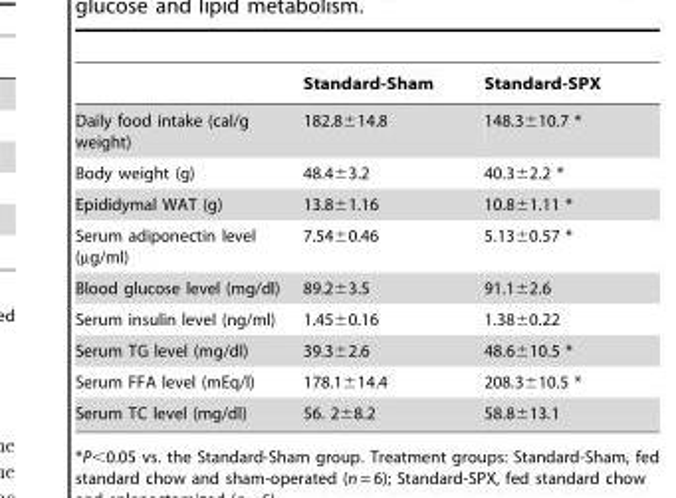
<table><thead><tr><td></td><td>Standard-Sham</td><td>Standard-SPX</td></tr></thead><tbody><tr><td>Daily food intake (cal/g weight)</td><td>182.8±14.8</td><td>148.3±10.7 *</td></tr><tr><td>Body weight (g)</td><td>48.4±3.2</td><td>40.3±2.2 *</td></tr><tr><td>Epididymal WAT (g)</td><td>13.8±1.16</td><td>10.8±1.11 *</td></tr><tr><td>Serum adiponectin level (µg/ml)</td><td>7.54±0.46</td><td>5.13±0.57 *</td></tr><tr><td>Blood glucose level (mg/dl)</td><td>89.2±3.5</td><td>91.1±2.6</td></tr><tr><td>Serum insulin level (ng/ml)</td><td>1.45±0.16</td><td>1.38±0.22</td></tr><tr><td>Serum TG level (mg/dl)</td><td>39.3±2.6</td><td>48.6±10.5 *</td></tr><tr><td>Serum FFA level (mEq/l)</td><td>178.1±14.4</td><td>208.3±10.5 *</td></tr><tr><td>Serum TC level (mg/dl)</td><td>56. 2±8.2</td><td>58.8±13.1</td></tr></tbody></table>